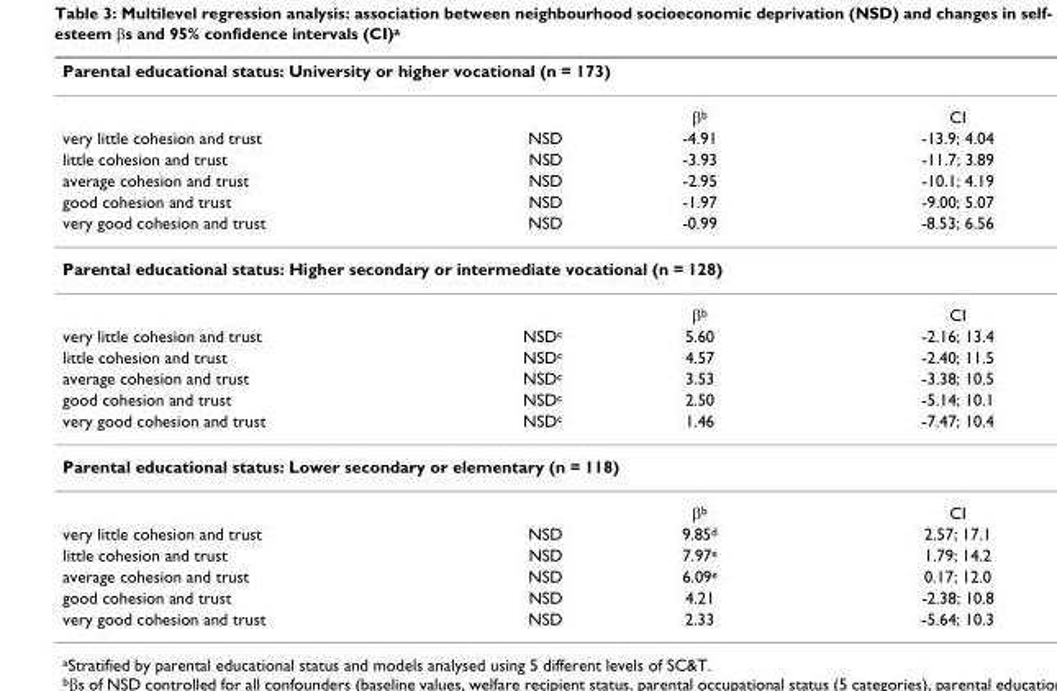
<table><thead><tr><td colspan="4">Parental educational status: University or higher vocational (n = 173)</td></tr><tr><td></td><td></td><td>βb</td><td>CI</td></tr></thead><tbody><tr><td>very little cohesion and trust</td><td>NSD</td><td>-4.91</td><td>-13.9; 4.04</td></tr><tr><td>little cohesion and trust</td><td>NSD</td><td>-3.93</td><td>-11.7; 3.89</td></tr><tr><td>average cohesion and trust</td><td>NSD</td><td>-2.95</td><td>-10.1; 4.19</td></tr><tr><td>good cohesion and trust</td><td>NSD</td><td>-1.97</td><td>-9.00; 5.07</td></tr><tr><td>very good cohesion and trust</td><td>NSD</td><td>-0.99</td><td>-8.53; 6.56</td></tr><tr><td colspan="4">Parental educational status: Higher secondary or intermediate vocational (n = 128)</td></tr><tr><td></td><td></td><td>βb</td><td>CI</td></tr><tr><td>very little cohesion and trust</td><td>NSDc</td><td>5.60</td><td>-2.16; 13.4</td></tr><tr><td>little cohesion and trust</td><td>NSDc</td><td>4.57</td><td>-2.40; 11.5</td></tr><tr><td>average cohesion and trust</td><td>NSDc</td><td>3.53</td><td>-3.38; 10.5</td></tr><tr><td>good cohesion and trust</td><td>NSDc</td><td>2.50</td><td>-5.14; 10.1</td></tr><tr><td>very good cohesion and trust</td><td>NSDc</td><td>1.46</td><td>-7.47; 10.4</td></tr><tr><td colspan="4">Parental educational status: Lower secondary or elementary (n = 118)</td></tr><tr><td></td><td></td><td>βb</td><td>CI</td></tr><tr><td>very little cohesion and trust</td><td>NSD</td><td>9.85d</td><td>2.57; 17.1</td></tr><tr><td>little cohesion and trust</td><td>NSD</td><td>7.97e</td><td>1.79; 14.2</td></tr><tr><td>average cohesion and trust</td><td>NSD</td><td>6.09e</td><td>0.17; 12.0</td></tr><tr><td>good cohesion and trust</td><td>NSD</td><td>4.21</td><td>-2.38; 10.8</td></tr><tr><td>very good cohesion and trust</td><td>NSD</td><td>2.33</td><td>-5.64; 10.3</td></tr></tbody></table>